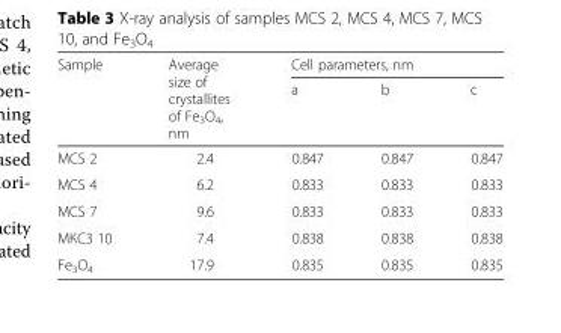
<table><thead><tr><td rowspan="2">Sample</td><td rowspan="2">Average size of crystallites of Fe<sub>3</sub>O<sub>4</sub>, nm</td><td colspan="3">Cell parameters, nm</td></tr><tr><td>а</td><td>b</td><td>c</td></tr></thead><tbody><tr><td>MCS 2</td><td>2.4</td><td>0.847</td><td>0.847</td><td>0.847</td></tr><tr><td>MCS 4</td><td>6.2</td><td>0.833</td><td>0.833</td><td>0.833</td></tr><tr><td>MCS 7</td><td>9.6</td><td>0.833</td><td>0.833</td><td>0.833</td></tr><tr><td>МКС3 10</td><td>7.4</td><td>0.838</td><td>0.838</td><td>0.838</td></tr><tr><td>Fe<sub>3</sub>O<sub>4</sub></td><td>17.9</td><td>0.835</td><td>0.835</td><td>0.835</td></tr></tbody></table>